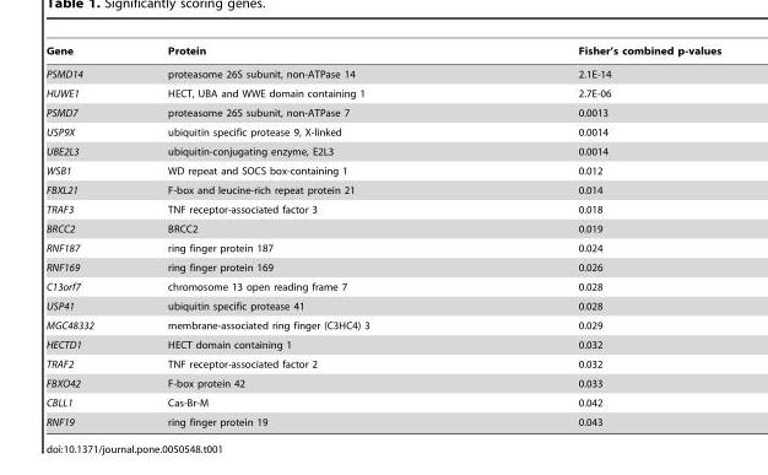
<table><thead><tr><td>Gene</td><td>Protein</td><td>Fisher’s combined p-values</td></tr></thead><tbody><tr><td>PSMD14</td><td>proteasome 26S subunit, non-ATPase 14</td><td>2.1E-14</td></tr><tr><td>HUWE1</td><td>HECT, UBA and WWE domain containing 1</td><td>2.7E-06</td></tr><tr><td>PSMD7</td><td>proteasome 26S subunit, non-ATPase 7</td><td>0.0013</td></tr><tr><td>USP9X</td><td>ubiquitin specific protease 9, X-linked</td><td>0.0014</td></tr><tr><td>UBE2L3</td><td>ubiquitin-conjugating enzyme, E2L3</td><td>0.0014</td></tr><tr><td>WSB1</td><td>WD repeat and SOCS box-containing 1</td><td>0.012</td></tr><tr><td>FBXL21</td><td>F-box and leucine-rich repeat protein 21</td><td>0.014</td></tr><tr><td>TRAF3</td><td>TNF receptor-associated factor 3</td><td>0.018</td></tr><tr><td>BRCC2</td><td>BRCC2</td><td>0.019</td></tr><tr><td>RNF187</td><td>ring finger protein 187</td><td>0.024</td></tr><tr><td>RNF169</td><td>ring finger protein 169</td><td>0.026</td></tr><tr><td>C13orf7</td><td>chromosome 13 open reading frame 7</td><td>0.028</td></tr><tr><td>USP41</td><td>ubiquitin specific protease 41</td><td>0.028</td></tr><tr><td>MGC48332</td><td>membrane-associated ring finger (C3HC4) 3</td><td>0.029</td></tr><tr><td>HECTD1</td><td>HECT domain containing 1</td><td>0.032</td></tr><tr><td>TRAF2</td><td>TNF receptor-associated factor 2</td><td>0.032</td></tr><tr><td>FBXO42</td><td>F-box protein 42</td><td>0.033</td></tr><tr><td>CBLL1</td><td>Cas-Br-M</td><td>0.042</td></tr><tr><td>RNF19</td><td>ring finger protein 19</td><td>0.043</td></tr></tbody></table>